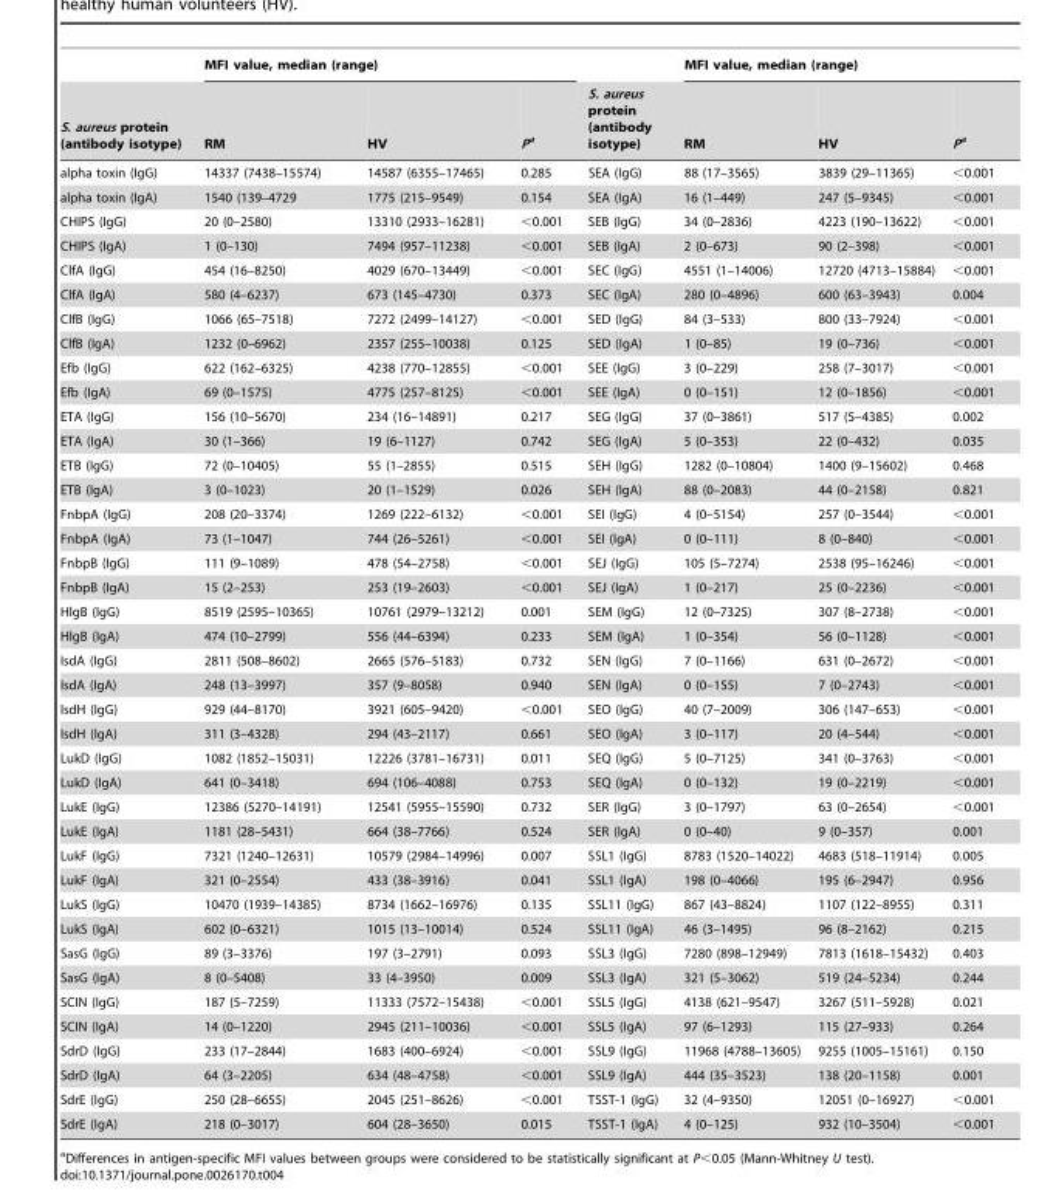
<table><thead><tr><td rowspan="2">S. aureus protein (antibody isotype)</td><td colspan="3">MFI value, median (range)</td><td rowspan="2">S. aureus protein (antibody isotype)</td><td colspan="3">MFI value, median (range)</td></tr><tr><td>RM</td><td>HV</td><td>Pa</td><td>RM</td><td>HV</td><td>Pa</td></tr></thead><tbody><tr><td>alpha toxin (IgG)</td><td>14337 (7438–15574)</td><td>14587 (6355–17465)</td><td>0.285</td><td>SEA (IgG)</td><td>88 (17–3565)</td><td>3839 (29–11365)</td><td>&lt;0.001</td></tr><tr><td>alpha toxin (IgA)</td><td>1540 (139–4729</td><td>1775 (215–9549)</td><td>0.154</td><td>SEA (IgA)</td><td>16 (1–449)</td><td>247 (5–9345)</td><td>&lt;0.001</td></tr><tr><td>CHIPS (IgG)</td><td>20 (0–2580)</td><td>13310 (2933–16281)</td><td>&lt;0.001</td><td>SEB (IgG)</td><td>34 (0–2836)</td><td>4223 (190–13622)</td><td>&lt;0.001</td></tr><tr><td>CHIPS (IgA)</td><td>1 (0–130)</td><td>7494 (957–11238)</td><td>&lt;0.001</td><td>SEB (IgA)</td><td>2 (0–673)</td><td>90 (2–398)</td><td>&lt;0.001</td></tr><tr><td>ClfA (IgG)</td><td>454 (16–8250)</td><td>4029 (670–13449)</td><td>&lt;0.001</td><td>SEC (IgG)</td><td>4551 (1–14006)</td><td>12720 (4713–15884)</td><td>&lt;0.001</td></tr><tr><td>ClfA (IgA)</td><td>580 (4–6237)</td><td>673 (145–4730)</td><td>0.373</td><td>SEC (IgA)</td><td>280 (0–4896)</td><td>600 (63–3943)</td><td>0.004</td></tr><tr><td>ClfB (IgG)</td><td>1066 (65–7518)</td><td>7272 (2499–14127)</td><td>&lt;0.001</td><td>SED (IgG)</td><td>84 (3–533)</td><td>800 (33–7924)</td><td>&lt;0.001</td></tr><tr><td>ClfB (IgA)</td><td>1232 (0–6962)</td><td>2357 (255–10038)</td><td>0.125</td><td>SED (IgA)</td><td>1 (0–85)</td><td>19 (0–736)</td><td>&lt;0.001</td></tr><tr><td>Efb (IgG)</td><td>622 (162–6325)</td><td>4238 (770–12855)</td><td>&lt;0.001</td><td>SEE (IgG)</td><td>3 (0–229)</td><td>258 (7–3017)</td><td>&lt;0.001</td></tr><tr><td>Efb (IgA)</td><td>69 (0–1575)</td><td>4775 (257–8125)</td><td>&lt;0.001</td><td>SEE (IgA)</td><td>0 (0–151)</td><td>12 (0–1856)</td><td>&lt;0.001</td></tr><tr><td>ETA (IgG)</td><td>156 (10–5670)</td><td>234 (16–14891)</td><td>0.217</td><td>SEG (IgG)</td><td>37 (0–3861)</td><td>517 (5–4385)</td><td>0.002</td></tr><tr><td>ETA (IgA)</td><td>30 (1–366)</td><td>19 (6–1127)</td><td>0.742</td><td>SEG (IgA)</td><td>5 (0–353)</td><td>22 (0–432)</td><td>0.035</td></tr><tr><td>ETB (IgG)</td><td>72 (0–10405)</td><td>55 (1–2855)</td><td>0.515</td><td>SEH (IgG)</td><td>1282 (0–10804)</td><td>1400 (9–15602)</td><td>0.468</td></tr><tr><td>ETB (IgA)</td><td>3 (0–1023)</td><td>20 (1–1529)</td><td>0.026</td><td>SEH (IgA)</td><td>88 (0–2083)</td><td>44 (0–2158)</td><td>0.821</td></tr><tr><td>FnbpA (IgG)</td><td>208 (20–3374)</td><td>1269 (222–6132)</td><td>&lt;0.001</td><td>SEI (IgG)</td><td>4 (0–5154)</td><td>257 (0–3544)</td><td>&lt;0.001</td></tr><tr><td>FnbpA (IgA)</td><td>73 (1–1047)</td><td>744 (26–5261)</td><td>&lt;0.001</td><td>SEI (IgA)</td><td>0 (0–111)</td><td>8 (0–840)</td><td>&lt;0.001</td></tr><tr><td>FnbpB (IgG)</td><td>111 (9–1089)</td><td>478 (54–2758)</td><td>&lt;0.001</td><td>SEJ (IgG)</td><td>105 (5–7274)</td><td>2538 (95–16246)</td><td>&lt;0.001</td></tr><tr><td>FnbpB (IgA)</td><td>15 (2–253)</td><td>253 (19–2603)</td><td>&lt;0.001</td><td>SEJ (IgA)</td><td>1 (0–217)</td><td>25 (0–2236)</td><td>&lt;0.001</td></tr><tr><td>HlgB (IgG)</td><td>8519 (2595–10365)</td><td>10761 (2979–13212)</td><td>0.001</td><td>SEM (IgG)</td><td>12 (0–7325)</td><td>307 (8–2738)</td><td>&lt;0.001</td></tr><tr><td>HlgB (IgA)</td><td>474 (10–2799)</td><td>556 (44–6394)</td><td>0.233</td><td>SEM (IgA)</td><td>1 (0–354)</td><td>56 (0–1128)</td><td>&lt;0.001</td></tr><tr><td>IsdA (IgG)</td><td>2811 (508–8602)</td><td>2665 (576–5183)</td><td>0.732</td><td>SEN (IgG)</td><td>7 (0–1166)</td><td>631 (0–2672)</td><td>&lt;0.001</td></tr><tr><td>IsdA (IgA)</td><td>248 (13–3997)</td><td>357 (9–8058)</td><td>0.940</td><td>SEN (IgA)</td><td>0 (0–155)</td><td>7 (0–2743)</td><td>&lt;0.001</td></tr><tr><td>IsdH (IgG)</td><td>929 (44–8170)</td><td>3921 (605–9420)</td><td>&lt;0.001</td><td>SEO (IgG)</td><td>40 (7–2009)</td><td>306 (147–653)</td><td>&lt;0.001</td></tr><tr><td>IsdH (IgA)</td><td>311 (3–4328)</td><td>294 (43–2117)</td><td>0.661</td><td>SEO (IgA)</td><td>3 (0–117)</td><td>20 (4–544)</td><td>&lt;0.001</td></tr><tr><td>LukD (IgG)</td><td>1082 (1852–15031)</td><td>12226 (3781–16731)</td><td>0.011</td><td>SEQ (IgG)</td><td>5 (0–7125)</td><td>341 (0–3763)</td><td>&lt;0.001</td></tr><tr><td>LukD (IgA)</td><td>641 (0–3418)</td><td>694 (106–4088)</td><td>0.753</td><td>SEQ (IgA)</td><td>0 (0–132)</td><td>19 (0–2219)</td><td>&lt;0.001</td></tr><tr><td>LukE (IgG)</td><td>12386 (5270–14191)</td><td>12541 (5955–15590)</td><td>0.732</td><td>SER (IgG)</td><td>3 (0–1797)</td><td>63 (0–2654)</td><td>&lt;0.001</td></tr><tr><td>LukE (IgA)</td><td>1181 (28–5431)</td><td>664 (38–7766)</td><td>0.524</td><td>SER (IgA)</td><td>0 (0–40)</td><td>9 (0–357)</td><td>0.001</td></tr><tr><td>LukF (IgG)</td><td>7321 (1240–12631)</td><td>10579 (2984–14996)</td><td>0.007</td><td>SSL1 (IgG)</td><td>8783 (1520–14022)</td><td>4683 (518–11914)</td><td>0.005</td></tr><tr><td>LukF (IgA)</td><td>321 (0–2554)</td><td>433 (38–3916)</td><td>0.041</td><td>SSL1 (IgA)</td><td>198 (0–4066)</td><td>195 (6–2947)</td><td>0.956</td></tr><tr><td>LukS (IgG)</td><td>10470 (1939–14385)</td><td>8734 (1662–16976)</td><td>0.135</td><td>SSL11 (IgG)</td><td>867 (43–8824)</td><td>1107 (122–8955)</td><td>0.311</td></tr><tr><td>LukS (IgA)</td><td>602 (0–6321)</td><td>1015 (13–10014)</td><td>0.524</td><td>SSL11 (IgA)</td><td>46 (3–1495)</td><td>96 (8–2162)</td><td>0.215</td></tr><tr><td>SasG (IgG)</td><td>89 (3–3376)</td><td>197 (3–2791)</td><td>0.093</td><td>SSL3 (IgG)</td><td>7280 (898–12949)</td><td>7813 (1618–15432)</td><td>0.403</td></tr><tr><td>SasG (IgA)</td><td>8 (0–5408)</td><td>33 (4–3950)</td><td>0.009</td><td>SSL3 (IgA)</td><td>321 (5–3062)</td><td>519 (24–5234)</td><td>0.244</td></tr><tr><td>SCIN (IgG)</td><td>187 (5–7259)</td><td>11333 (7572–15438)</td><td>&lt;0.001</td><td>SSL5 (IgG)</td><td>4138 (621–9547)</td><td>3267 (511–5928)</td><td>0.021</td></tr><tr><td>SCIN (IgA)</td><td>14 (0–1220)</td><td>2945 (211–10036)</td><td>&lt;0.001</td><td>SSL5 (IgA)</td><td>97 (6–1293)</td><td>115 (27–933)</td><td>0.264</td></tr><tr><td>SdrD (IgG)</td><td>233 (17–2844)</td><td>1683 (400–6924)</td><td>&lt;0.001</td><td>SSL9 (IgG)</td><td>11968 (4788–13605)</td><td>9255 (1005–15161)</td><td>0.150</td></tr><tr><td>SdrD (IgA)</td><td>64 (3–2205)</td><td>634 (48–4758)</td><td>&lt;0.001</td><td>SSL9 (IgA)</td><td>444 (35–3523)</td><td>138 (20–1158)</td><td>0.001</td></tr><tr><td>SdrE (IgG)</td><td>250 (28–6655)</td><td>2045 (251–8626)</td><td>&lt;0.001</td><td>TSST-1 (IgG)</td><td>32 (4–9350)</td><td>12051 (0–16927)</td><td>&lt;0.001</td></tr><tr><td>SdrE (IgA)</td><td>218 (0–3017)</td><td>604 (28–3650)</td><td>0.015</td><td>TSST-1 (IgA)</td><td>4 (0–125)</td><td>932 (10–3504)</td><td>&lt;0.001</td></tr></tbody></table>